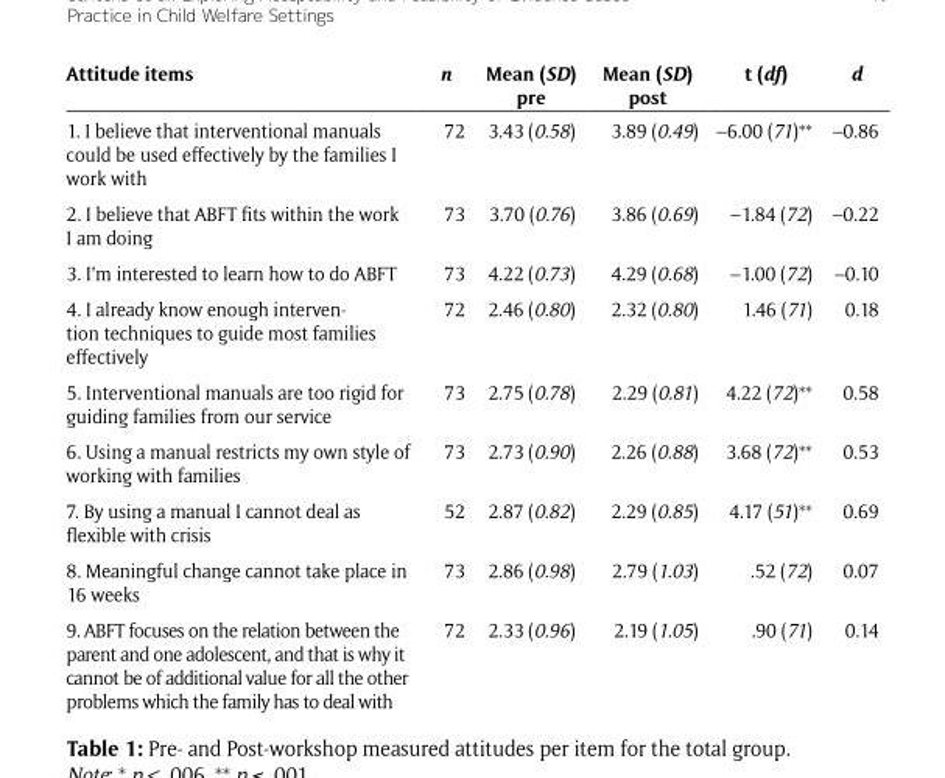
<table><thead><tr><td>Attitude items</td><td>n</td><td>Mean (SD) pre</td><td>Mean (SD) post</td><td>t (df)</td><td>d</td></tr></thead><tbody><tr><td>1. I believe that interventional manuals could be used effectively by the families I work with</td><td>72</td><td>3.43 (0.58)</td><td>3.89 (0.49)</td><td>–6.00 (71)**</td><td>–0.86</td></tr><tr><td>2. I believe that ABFT fits within the work I am doing</td><td>73</td><td>3.70 (0.76)</td><td>3.86 (0.69)</td><td>–1.84 (72)</td><td>–0.22</td></tr><tr><td>3. I’m interested to learn how to do ABFT</td><td>73</td><td>4.22 (0.73)</td><td>4.29 (0.68)</td><td>–1.00 (72)</td><td>–0.10</td></tr><tr><td>4. I already know enough interven- tion techniques to guide most families effectively</td><td>72</td><td>2.46 (0.80)</td><td>2.32 (0.80)</td><td>1.46 (71)</td><td>0.18</td></tr><tr><td>5. Interventional manuals are too rigid for guiding families from our service</td><td>73</td><td>2.75 (0.78)</td><td>2.29 (0.81)</td><td>4.22 (72)**</td><td>0.58</td></tr><tr><td>6. Using a manual restricts my own style of working with families</td><td>73</td><td>2.73 (0.90)</td><td>2.26 (0.88)</td><td>3.68 (72)**</td><td>0.53</td></tr><tr><td>7. By using a manual I cannot deal as flexible with crisis</td><td>52</td><td>2.87 (0.82)</td><td>2.29 (0.85)</td><td>4.17 (51)**</td><td>0.69</td></tr><tr><td>8. Meaningful change cannot take place in 16 weeks</td><td>73</td><td>2.86 (0.98)</td><td>2.79 (1.03)</td><td>.52 (72)</td><td>0.07</td></tr><tr><td>9. ABFT focuses on the relation between the parent and one adolescent, and that is why it cannot be of additional value for all the other problems which the family has to deal with</td><td>72</td><td>2.33 (0.96)</td><td>2.19 (1.05)</td><td>.90 (71)</td><td>0.14</td></tr></tbody></table>